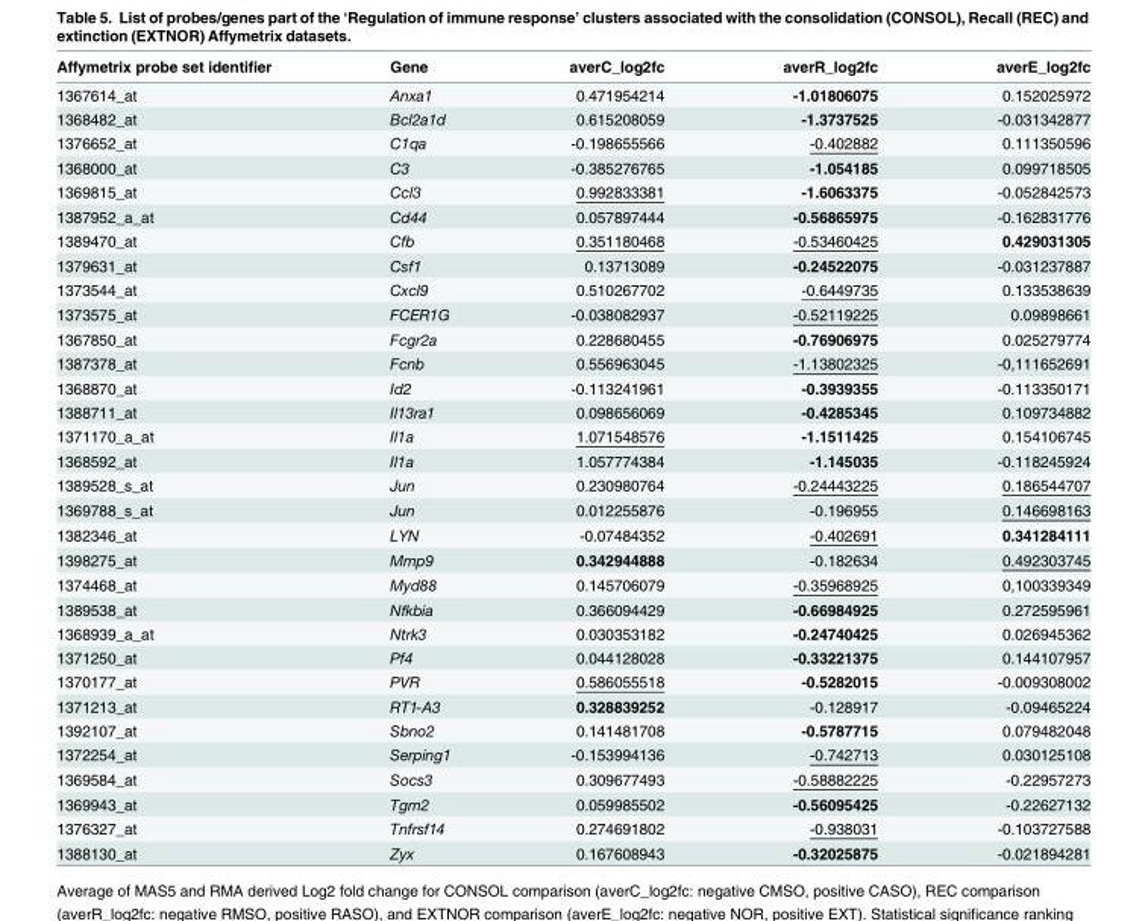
<table><thead><tr><td>Affymetrix probe set identifier</td><td>Gene</td><td>averC_log2fc</td><td>averR_log2fc</td><td>averE_log2fc</td></tr></thead><tbody><tr><td>1367614_at</td><td>Anxa1</td><td>0.471954214</td><td>-1.01806075</td><td>0.152025972</td></tr><tr><td>1368482_at</td><td>Bcl2a1d</td><td>0.615208059</td><td>-1.3737525</td><td>-0.031342877</td></tr><tr><td>1376652_at</td><td>C1qa</td><td>-0.198655566</td><td>-0.402882</td><td>0.111350596</td></tr><tr><td>1368000_at</td><td>C3</td><td>-0.385276765</td><td>-1.054185</td><td>0.099718505</td></tr><tr><td>1369815_at</td><td>Ccl3</td><td>0.992833381</td><td>-1.6063375</td><td>-0.052842573</td></tr><tr><td>1387952_a_at</td><td>Cd44</td><td>0.057897444</td><td>-0.56865975</td><td>-0.162831776</td></tr><tr><td>1389470_at</td><td>Cfb</td><td>0.351180468</td><td>-0.53460425</td><td>0.429031305</td></tr><tr><td>1379631_at</td><td>Csf1</td><td>0.13713089</td><td>-0.24522075</td><td>-0.031237887</td></tr><tr><td>1373544_at</td><td>Cxcl9</td><td>0.510267702</td><td>-0.6449735</td><td>0.133538639</td></tr><tr><td>1373575_at</td><td>FCER1G</td><td>-0.038082937</td><td>-0.52119225</td><td>0.09898661</td></tr><tr><td>1367850_at</td><td>Fcgr2a</td><td>0.228680455</td><td>-0.76906975</td><td>0.025279774</td></tr><tr><td>1387378_at</td><td>Fcnb</td><td>0.556963045</td><td>-1.13802325</td><td>-0,111652691</td></tr><tr><td>1368870_at</td><td>Id2</td><td>-0.113241961</td><td>-0.3939355</td><td>-0.113350171</td></tr><tr><td>1388711_at</td><td>Il13ra1</td><td>0.098656069</td><td>-0.4285345</td><td>0.109734882</td></tr><tr><td>1371170_a_at</td><td>Il1a</td><td>1.071548576</td><td>-1.1511425</td><td>0.154106745</td></tr><tr><td>1368592_at</td><td>Il1a</td><td>1.057774384</td><td>-1.145035</td><td>-0.118245924</td></tr><tr><td>1389528_s_at</td><td>Jun</td><td>0.230980764</td><td>-0.24443225</td><td>0.186544707</td></tr><tr><td>1369788_s_at</td><td>Jun</td><td>0.012255876</td><td>-0.196955</td><td>0.146698163</td></tr><tr><td>1382346_at</td><td>LYN</td><td>-0.07484352</td><td>-0.402691</td><td>0.341284111</td></tr><tr><td>1398275_at</td><td>Mmp9</td><td>0.342944888</td><td>-0.182634</td><td>0.492303745</td></tr><tr><td>1374468_at</td><td>Myd88</td><td>0.145706079</td><td>-0.35968925</td><td>0,100339349</td></tr><tr><td>1389538_at</td><td>Nfkbia</td><td>0.366094429</td><td>-0.66984925</td><td>0.272595961</td></tr><tr><td>1368939_a_at</td><td>Ntrk3</td><td>0.030353182</td><td>-0.24740425</td><td>0.026945362</td></tr><tr><td>1371250_at</td><td>Pf4</td><td>0.044128028</td><td>-0.33221375</td><td>0.144107957</td></tr><tr><td>1370177_at</td><td>PVR</td><td>0.586055518</td><td>-0.5282015</td><td>-0.009308002</td></tr><tr><td>1371213_at</td><td>RT1-A3</td><td>0.328839252</td><td>-0.128917</td><td>-0.09465224</td></tr><tr><td>1392107_at</td><td>Sbno2</td><td>0.141481708</td><td>-0.5787715</td><td>0.079482048</td></tr><tr><td>1372254_at</td><td>Serping1</td><td>-0.153994136</td><td>-0.742713</td><td>0.030125108</td></tr><tr><td>1369584_at</td><td>Socs3</td><td>0.309677493</td><td>-0.58882225</td><td>-0.22957273</td></tr><tr><td>1369943_at</td><td>Tgm2</td><td>0.059985502</td><td>-0.56095425</td><td>-0.22627132</td></tr><tr><td>1376327_at</td><td>Tnfrsf14</td><td>0.274691802</td><td>-0.938031</td><td>-0.103727588</td></tr><tr><td>1388130_at</td><td>Zyx</td><td>0.167608943</td><td>-0.32025875</td><td>-0.021894281</td></tr></tbody></table>